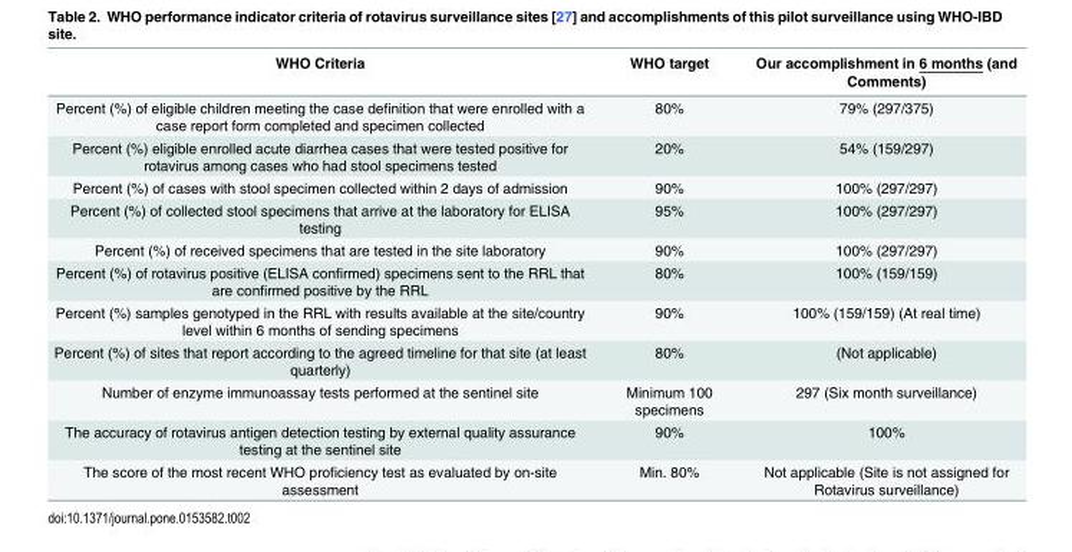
<table><thead><tr><td>WHO Criteria</td><td>WHO target</td><td>Our accomplishment in 6 months (and Comments)</td></tr></thead><tbody><tr><td>Percent (%) of eligible children meeting the case definition that were enrolled with a case report form completed and specimen collected</td><td>80%</td><td>79% (297/375)</td></tr><tr><td>Percent (%) eligible enrolled acute diarrhea cases that were tested positive for rotavirus among cases who had stool specimens tested</td><td>20%</td><td>54% (159/297)</td></tr><tr><td>Percent (%) of cases with stool specimen collected within 2 days of admission</td><td>90%</td><td>100% (297/297)</td></tr><tr><td>Percent (%) of collected stool specimens that arrive at the laboratory for ELISA testing</td><td>95%</td><td>100% (297/297)</td></tr><tr><td>Percent (%) of received specimens that are tested in the site laboratory</td><td>90%</td><td>100% (297/297)</td></tr><tr><td>Percent (%) of rotavirus positive (ELISA confirmed) specimens sent to the RRL that are confirmed positive by the RRL</td><td>80%</td><td>100% (159/159)</td></tr><tr><td>Percent (%) samples genotyped in the RRL with results available at the site/country level within 6 months of sending specimens</td><td>90%</td><td>100% (159/159) (At real time)</td></tr><tr><td>Percent (%) of sites that report according to the agreed timeline for that site (at least quarterly)</td><td>80%</td><td>(Not applicable)</td></tr><tr><td>Number of enzyme immunoassay tests performed at the sentinel site</td><td>Minimum 100 specimens</td><td>297 (Six month surveillance)</td></tr><tr><td>The accuracy of rotavirus antigen detection testing by external quality assurance testing at the sentinel site</td><td>90%</td><td>100%</td></tr><tr><td>The score of the most recent WHO proficiency test as evaluated by on-site assessment</td><td>Min. 80%</td><td>Not applicable (Site is not assigned for Rotavirus surveillance)</td></tr></tbody></table>